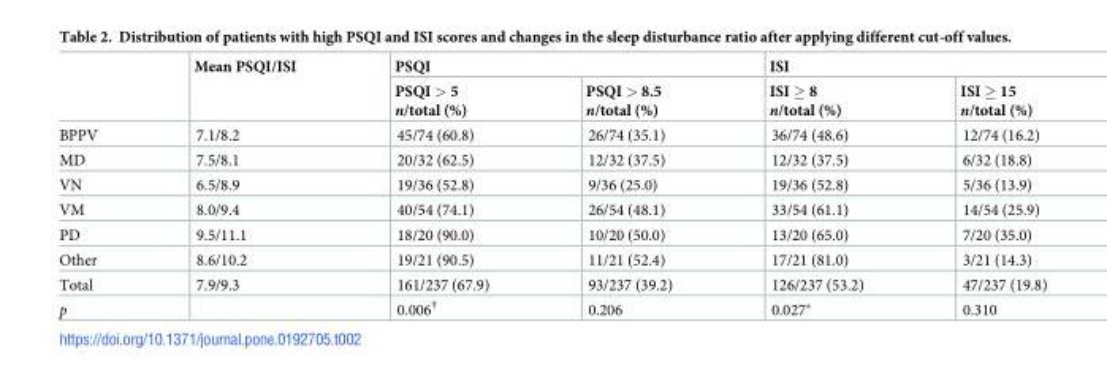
<table><thead><tr><td rowspan="2"></td><td rowspan="2">Mean PSQI/ISI</td><td colspan="2">PSQI</td><td colspan="2">ISI</td></tr><tr><td>PSQI &gt; 5 n/total (%)</td><td>PSQI &gt; 8.5 n/total (%)</td><td>ISI ≥ 8 n/total (%)</td><td>ISI ≥ 15 n/total (%)</td></tr></thead><tbody><tr><td>BPPV</td><td>7.1/8.2</td><td>45/74 (60.8)</td><td>26/74 (35.1)</td><td>36/74 (48.6)</td><td>12/74 (16.2)</td></tr><tr><td>MD</td><td>7.5/8.1</td><td>20/32 (62.5)</td><td>12/32 (37.5)</td><td>12/32 (37.5)</td><td>6/32 (18.8)</td></tr><tr><td>VN</td><td>6.5/8.9</td><td>19/36 (52.8)</td><td>9/36 (25.0)</td><td>19/36 (52.8)</td><td>5/36 (13.9)</td></tr><tr><td>VM</td><td>8.0/9.4</td><td>40/54 (74.1)</td><td>26/54 (48.1)</td><td>33/54 (61.1)</td><td>14/54 (25.9)</td></tr><tr><td>PD</td><td>9.5/11.1</td><td>18/20 (90.0)</td><td>10/20 (50.0)</td><td>13/20 (65.0)</td><td>7/20 (35.0)</td></tr><tr><td>Other</td><td>8.6/10.2</td><td>19/21 (90.5)</td><td>11/21 (52.4)</td><td>17/21 (81.0)</td><td>3/21 (14.3)</td></tr><tr><td>Total</td><td>7.9/9.3</td><td>161/237 (67.9)</td><td>93/237 (39.2)</td><td>126/237 (53.2)</td><td>47/237 (19.8)</td></tr><tr><td>p</td><td></td><td>0.006<sup>†</sup></td><td>0.206</td><td>0.027*</td><td>0.310</td></tr></tbody></table>